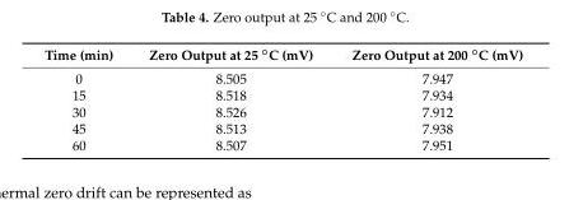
<table><thead><tr><td>Time (min)</td><td>Zero Output at 25 ◦C (mV)</td><td>Zero Output at 200 ◦C (mV)</td></tr></thead><tbody><tr><td>0</td><td>8.505</td><td>7.947</td></tr><tr><td>15</td><td>8.518</td><td>7.934</td></tr><tr><td>30</td><td>8.526</td><td>7.912</td></tr><tr><td>45</td><td>8.513</td><td>7.938</td></tr><tr><td>60</td><td>8.507</td><td>7.951</td></tr></tbody></table>